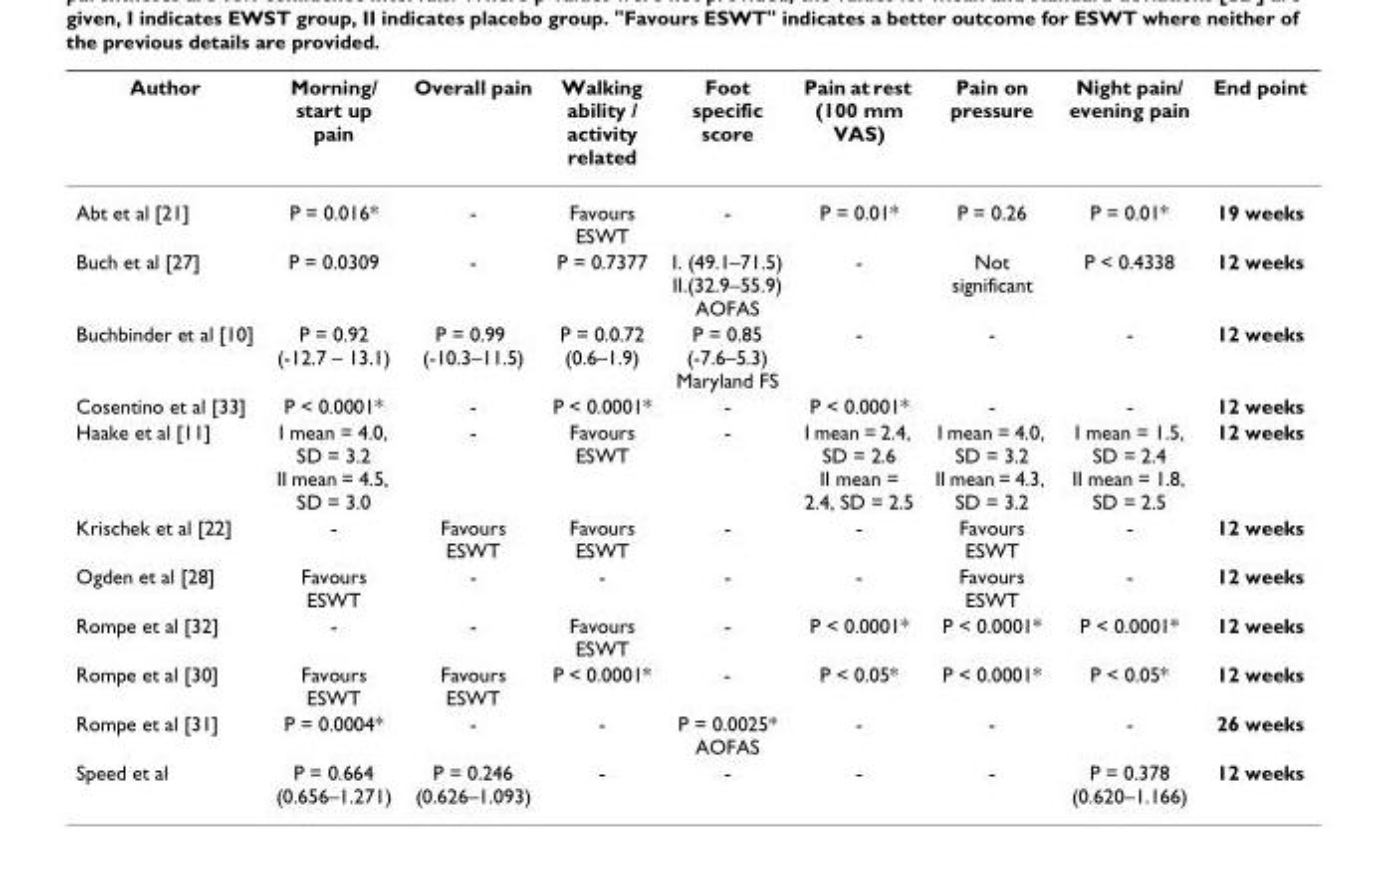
<table><thead><tr><td>Author</td><td>Morning/ start up pain</td><td>Overall pain</td><td>Walking ability / activity related</td><td>Foot specific score</td><td>Pain at rest (100 mm VAS)</td><td>Pain on pressure</td><td>Night pain/ evening pain</td><td>End point</td></tr></thead><tbody><tr><td>Abt et al [21]</td><td>P = 0.016*</td><td>-</td><td>Favours ESWT</td><td>-</td><td>P = 0.01*</td><td>P = 0.26</td><td>P = 0.01*</td><td>19 weeks</td></tr><tr><td>Buch et al [27]</td><td>P = 0.0309</td><td>-</td><td>P = 0.7377</td><td>I. (49.1–71.5) II.(32.9–55.9) AOFAS</td><td>-</td><td>Not significant</td><td>P &lt; 0.4338</td><td>12 weeks</td></tr><tr><td>Buchbinder et al [10]</td><td>P = 0.92 (-12.7 – 13.1)</td><td>P = 0.99 (-10.3–11.5)</td><td>P = 0.0.72 (0.6–1.9)</td><td>P = 0.85 (-7.6–5.3) Maryland FS</td><td>-</td><td>-</td><td>-</td><td>12 weeks</td></tr><tr><td>Cosentino et al [33]</td><td>P &lt; 0.0001*</td><td>-</td><td>P &lt; 0.0001*</td><td>-</td><td>P &lt; 0.0001*</td><td>-</td><td>-</td><td>12 weeks</td></tr><tr><td>Haake et al [11]</td><td>I mean = 4.0, SD = 3.2 II mean = 4.5, SD = 3.0</td><td>-</td><td>Favours ESWT</td><td>-</td><td>I mean = 2.4, SD = 2.6 II mean = 2.4, SD = 2.5</td><td>I mean = 4.0, SD = 3.2 II mean = 4.3, SD = 3.2</td><td>I mean = 1.5, SD = 2.4 II mean = 1.8, SD = 2.5</td><td>12 weeks</td></tr><tr><td>Krischek et al [22]</td><td>-</td><td>Favours ESWT</td><td>Favours ESWT</td><td>-</td><td>-</td><td>Favours ESWT</td><td>-</td><td>12 weeks</td></tr><tr><td>Ogden et al [28]</td><td>Favours ESWT</td><td>-</td><td>-</td><td>-</td><td>-</td><td>Favours ESWT</td><td>-</td><td>12 weeks</td></tr><tr><td>Rompe et al [32]</td><td>-</td><td>-</td><td>Favours ESWT</td><td>-</td><td>P &lt; 0.0001*</td><td>P &lt; 0.0001*</td><td>P &lt; 0.0001*</td><td>12 weeks</td></tr><tr><td>Rompe et al [30]</td><td>Favours ESWT</td><td>Favours ESWT</td><td>P &lt; 0.0001*</td><td>-</td><td>P &lt; 0.05*</td><td>P &lt; 0.0001*</td><td>P &lt; 0.05*</td><td>12 weeks</td></tr><tr><td>Rompe et al [31]</td><td>P = 0.0004*</td><td>-</td><td>-</td><td>P = 0.0025* AOFAS</td><td>-</td><td>-</td><td>-</td><td>26 weeks</td></tr><tr><td>Speed et al</td><td>P = 0.664 (0.656–1.271)</td><td>P = 0.246 (0.626–1.093)</td><td>-</td><td>-</td><td>-</td><td>-</td><td>P = 0.378 (0.620–1.166)</td><td>12 weeks</td></tr></tbody></table>